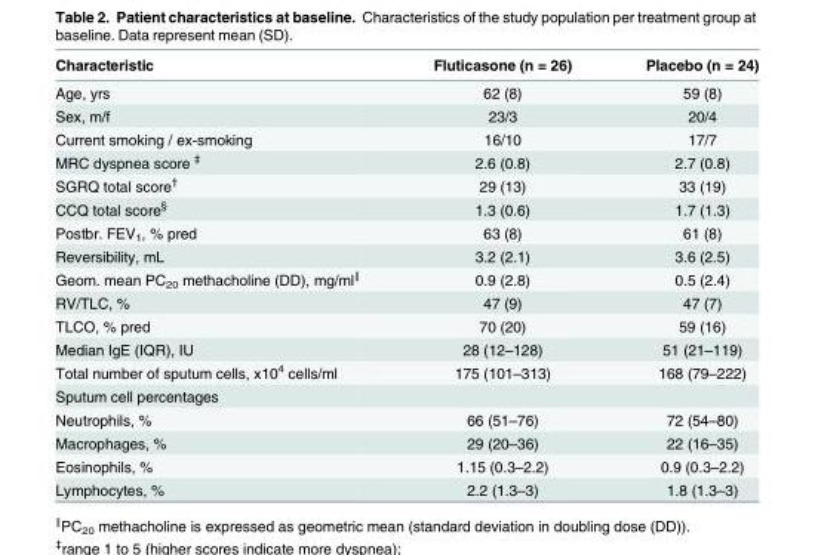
<table><thead><tr><td>Characteristic</td><td>Fluticasone (n = 26)</td><td>Placebo (n = 24)</td></tr></thead><tbody><tr><td>Age, yrs</td><td>62 (8)</td><td>59 (8)</td></tr><tr><td>Sex, m/f</td><td>23/3</td><td>20/4</td></tr><tr><td>Current smoking / ex-smoking</td><td>16/10</td><td>17/7</td></tr><tr><td>MRC dyspnea score <sup>‡</sup></td><td>2.6 (0.8)</td><td>2.7 (0.8)</td></tr><tr><td>SGRQ total score<sup>†</sup></td><td>29 (13)</td><td>33 (19)</td></tr><tr><td>CCQ total score<sup>§</sup></td><td>1.3 (0.6)</td><td>1.7 (1.3)</td></tr><tr><td>Postbr. FEV<sub>1</sub>, % pred</td><td>63 (8)</td><td>61 (8)</td></tr><tr><td>Reversibility, mL</td><td>3.2 (2.1)</td><td>3.6 (2.5)</td></tr><tr><td>Geom. mean PC<sub>20</sub> methacholine (DD), mg/ml<sup>║</sup></td><td>0.9 (2.8)</td><td>0.5 (2.4)</td></tr><tr><td>RV/TLC, %</td><td>47 (9)</td><td>47 (7)</td></tr><tr><td>TLCO, % pred</td><td>70 (20)</td><td>59 (16)</td></tr><tr><td>Median IgE (IQR), IU</td><td>28 (12–128)</td><td>51 (21–119)</td></tr><tr><td>Total number of sputum cells, x10<sup>4</sup> cells/ml</td><td>175 (101–313)</td><td>168 (79–222)</td></tr><tr><td colspan="3">Sputum cell percentages</td></tr><tr><td>Neutrophils, %</td><td>66 (51–76)</td><td>72 (54–80)</td></tr><tr><td>Macrophages, %</td><td>29 (20–36)</td><td>22 (16–35)</td></tr><tr><td>Eosinophils, %</td><td>1.15 (0.3–2.2)</td><td>0.9 (0.3–2.2)</td></tr><tr><td>Lymphocytes, %</td><td>2.2 (1.3–3)</td><td>1.8 (1.3–3)</td></tr></tbody></table>